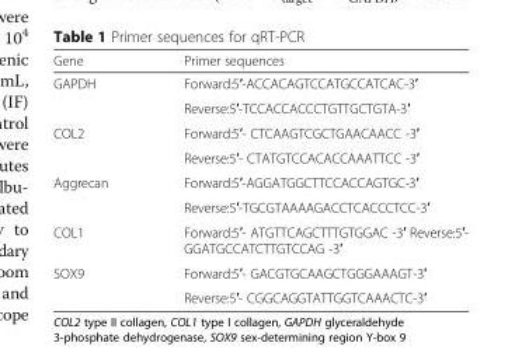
<table><thead><tr><td>Gene</td><td>Primer sequences</td></tr></thead><tbody><tr><td rowspan="2">GAPDH</td><td>Forward:5′-ACCACAGTCCATGCCATCAC-3′</td></tr><tr><td>Reverse:5′-TCCACCACCCTGTTGCTGTA-3′</td></tr><tr><td rowspan="2">COL2</td><td>Forward:5′- CTCAAGTCGCTGAACAACC -3′</td></tr><tr><td>Reverse:5′- CTATGTCCACACCAAATTCC -3′</td></tr><tr><td rowspan="2">Aggrecan</td><td>Forward:5′-AGGATGGCTTCCACCAGTGC-3′</td></tr><tr><td>Reverse:5′-TGCGTAAAAGACCTCACCCTCC-3′</td></tr><tr><td>COL1</td><td>Forward:5′- ATGTTCAGCTTTGTGGAC -3′ Reverse:5′- GGATGCCATCTTGTCCAG -3′</td></tr><tr><td rowspan="2">SOX9</td><td>Forward:5′- GACGTGCAAGCTGGGAAAGT-3′</td></tr><tr><td>Reverse:5′- CGGCAGGTATTGGTCAAACTC-3′</td></tr></tbody></table>